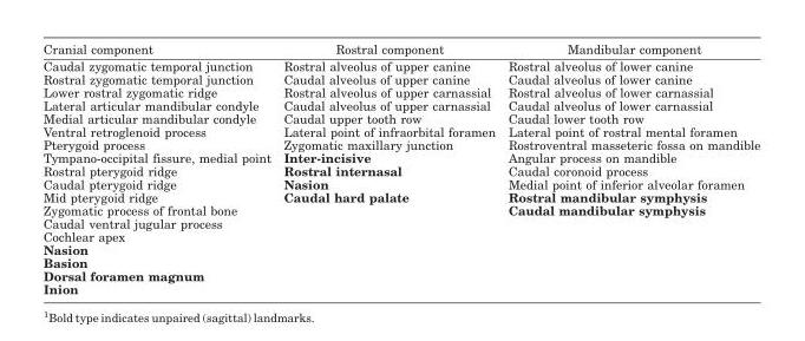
<table><thead><tr><td>Cranial component</td><td>Rostral component</td><td>Mandibular component</td></tr></thead><tbody><tr><td>Caudal zygomatic temporal junction</td><td>Rostral alveolus of upper canine</td><td>Rostral alveolus of lower canine</td></tr><tr><td>Rostral zygomatic temporal junction</td><td>Caudal alveolus of upper canine</td><td>Caudal alveolus of lower canine</td></tr><tr><td>Lower rostral zygomatic ridge</td><td>Rostral alveolus of upper carnassial</td><td>Rostral alveolus of lower carnassial</td></tr><tr><td>Lateral articular mandibular condyle</td><td>Caudal alveolus of upper carnassial</td><td>Caudal alveolus of lower carnassial</td></tr><tr><td>Medial articular mandibular condyle</td><td>Caudal upper tooth row</td><td>Caudal lower tooth row</td></tr><tr><td>Ventral retroglenoid process</td><td>Lateral point of infraorbital foramen</td><td>Lateral point of rostral mental foramen</td></tr><tr><td>Pterygoid process</td><td>Zygomatic maxillary junction</td><td>Rostroventral masseteric fossa on mandible</td></tr><tr><td>Tympano-occipital fissure, medial point</td><td>Inter-incisive</td><td>Angular process on mandible</td></tr><tr><td>Rostral pterygoid ridge</td><td>Rostral internasal</td><td>Caudal coronoid process</td></tr><tr><td>Caudal pterygoid ridge</td><td>Nasion</td><td>Medial point of inferior alveolar foramen</td></tr><tr><td>Mid pterygoid ridge</td><td>Caudal hard palate</td><td>Rostral mandibular symphysis</td></tr><tr><td>Zygomatic process of frontal bone</td><td></td><td>Caudal mandibular symphysis</td></tr><tr><td colspan="3">Caudal ventral jugular process</td></tr><tr><td colspan="3">Cochlear apex</td></tr><tr><td colspan="3">Nasion</td></tr><tr><td colspan="3">Basion</td></tr><tr><td colspan="3">Dorsal foramen magnum</td></tr><tr><td>Inion</td><td></td><td></td></tr></tbody></table>